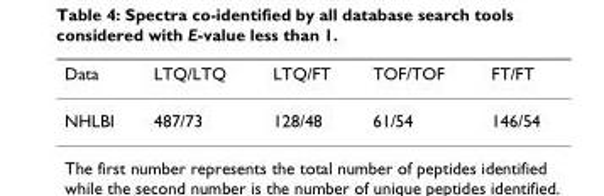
<table><thead><tr><td>Data</td><td>LTQ/LTQ</td><td>LTQ/FT</td><td>TOF/TOF</td><td>FT/FT</td></tr></thead><tbody><tr><td>NHLBI</td><td>487/73</td><td>128/48</td><td>61/54</td><td>146/54</td></tr></tbody></table>